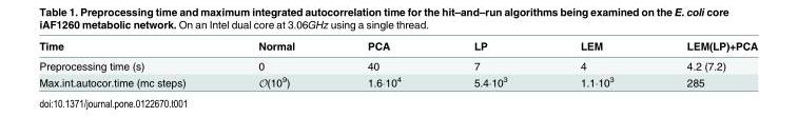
<table><thead><tr><td>Time</td><td>Normal</td><td>PCA</td><td>LP</td><td>LEM</td><td>LEM(LP)+PCA</td></tr></thead><tbody><tr><td>Preprocessing time (s)</td><td>0</td><td>40</td><td>7</td><td>4</td><td>4.2 (7.2)</td></tr><tr><td>Max.int.autocor.time (mc steps)</td><td>O(10<sup>9</sup>)</td><td>1.6⋅10<sup>4</sup></td><td>5.4⋅10<sup>3</sup></td><td>1.1⋅10<sup>3</sup></td><td>285</td></tr></tbody></table>